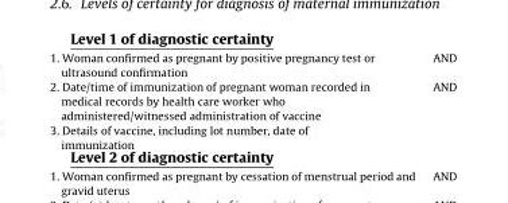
<table><tbody><tr><td>1. Woman confirmed as pregnant by positive pregnancy test or ultrasound confirmation</td><td>AND</td></tr><tr><td>2. Date/time of immunization of pregnant woman recorded in medical records by health care worker who administered/witnessed administration of vaccine</td><td>AND</td></tr><tr><td>3. Details of vaccine, including lot number, date of immunization</td><td></td></tr></tbody></table>